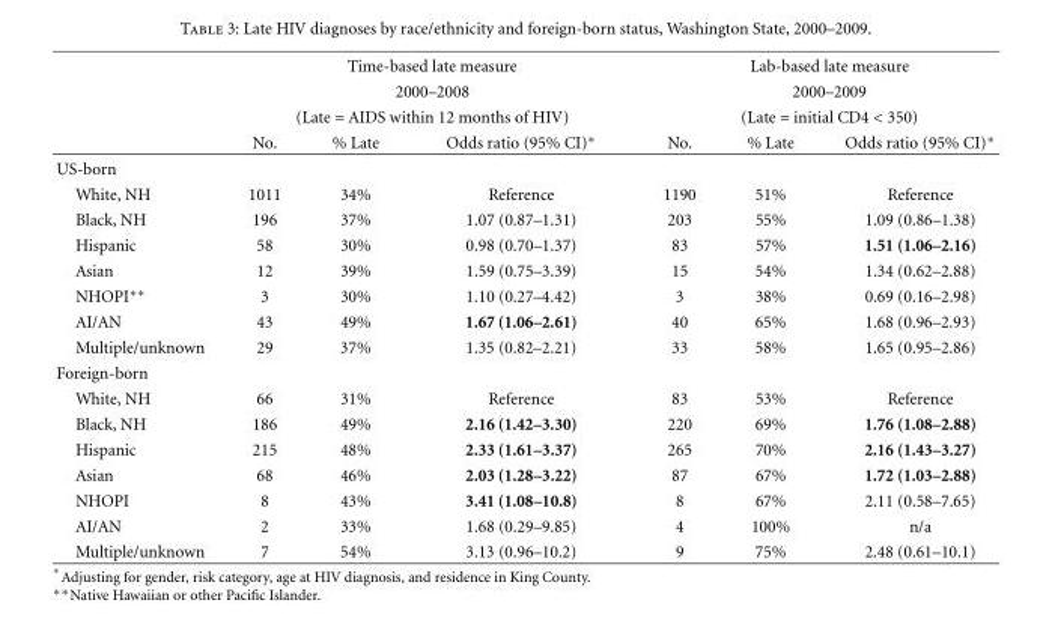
<table><thead><tr><td rowspan="4"></td><td rowspan="3" colspan="3">Time-based late measure 2000–2008 (Late = AIDS within 12 months of HIV)</td><td rowspan="3" colspan="3">Lab-based late measure 2000–2009 (Late = initial CD4 &lt; 350)</td></tr><tr></tr><tr></tr><tr><td>No.</td><td>% Late</td><td>Odds ratio (95% CI)∗</td><td>No.</td><td>% Late</td><td>Odds ratio (95% CI)∗</td></tr></thead><tbody><tr><td colspan="7">US-born</td></tr><tr><td>White, NH</td><td>1011</td><td>34%</td><td>Reference</td><td>1190</td><td>51%</td><td>Reference</td></tr><tr><td>Black, NH</td><td>196</td><td>37%</td><td>1.07 (0.87–1.31)</td><td>203</td><td>55%</td><td>1.09 (0.86–1.38)</td></tr><tr><td>Hispanic</td><td>58</td><td>30%</td><td>0.98 (0.70–1.37)</td><td>83</td><td>57%</td><td>1.51 (1.06–2.16)</td></tr><tr><td>Asian</td><td>12</td><td>39%</td><td>1.59 (0.75–3.39)</td><td>15</td><td>54%</td><td>1.34 (0.62–2.88)</td></tr><tr><td>NHOPI∗∗</td><td>3</td><td>30%</td><td>1.10 (0.27–4.42)</td><td>3</td><td>38%</td><td>0.69 (0.16–2.98)</td></tr><tr><td>AI/AN</td><td>43</td><td>49%</td><td>1.67 (1.06–2.61)</td><td>40</td><td>65%</td><td>1.68 (0.96–2.93)</td></tr><tr><td>Multiple/unknown</td><td>29</td><td>37%</td><td>1.35 (0.82–2.21)</td><td>33</td><td>58%</td><td>1.65 (0.95–2.86)</td></tr><tr><td colspan="7">Foreign-born</td></tr><tr><td>White, NH</td><td>66</td><td>31%</td><td>Reference</td><td>83</td><td>53%</td><td>Reference</td></tr><tr><td>Black, NH</td><td>186</td><td>49%</td><td>2.16 (1.42–3.30)</td><td>220</td><td>69%</td><td>1.76 (1.08–2.88)</td></tr><tr><td>Hispanic</td><td>215</td><td>48%</td><td>2.33 (1.61–3.37)</td><td>265</td><td>70%</td><td>2.16 (1.43–3.27)</td></tr><tr><td>Asian</td><td>68</td><td>46%</td><td>2.03 (1.28–3.22)</td><td>87</td><td>67%</td><td>1.72 (1.03–2.88)</td></tr><tr><td>NHOPI</td><td>8</td><td>43%</td><td>3.41 (1.08–10.8)</td><td>8</td><td>67%</td><td>2.11 (0.58–7.65)</td></tr><tr><td>AI/AN</td><td>2</td><td>33%</td><td>1.68 (0.29–9.85)</td><td>4</td><td>100%</td><td>n/a</td></tr><tr><td>Multiple/unknown</td><td>7</td><td>54%</td><td>3.13 (0.96–10.2)</td><td>9</td><td>75%</td><td>2.48 (0.61–10.1)</td></tr></tbody></table>